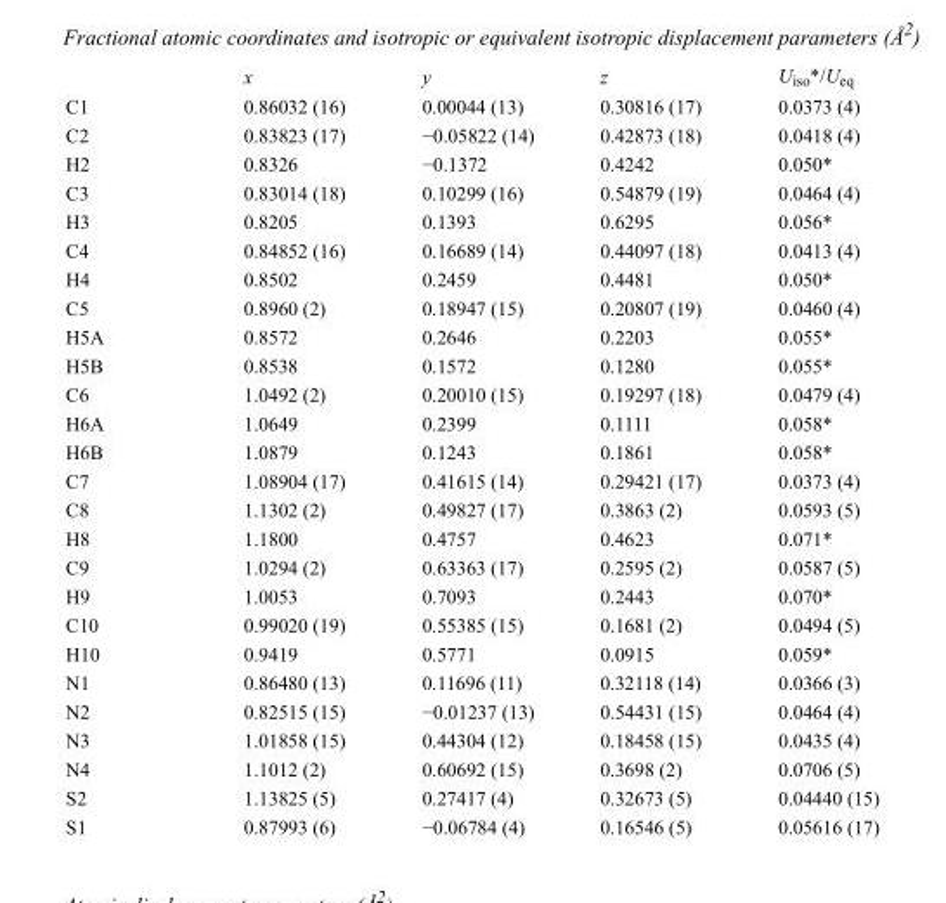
<table><thead><tr><td></td><td>x</td><td>y</td><td>z</td><td>U<sub>iso</sub>*/U<sub>eq</sub></td></tr></thead><tbody><tr><td>C1</td><td>0.86032 (16)</td><td>0.00044 (13)</td><td>0.30816 (17)</td><td>0.0373 (4)</td></tr><tr><td>C2</td><td>0.83823 (17)</td><td>−0.05822 (14)</td><td>0.42873 (18)</td><td>0.0418 (4)</td></tr><tr><td>H2</td><td>0.8326</td><td>−0.1372</td><td>0.4242</td><td>0.050*</td></tr><tr><td>C3</td><td>0.83014 (18)</td><td>0.10299 (16)</td><td>0.54879 (19)</td><td>0.0464 (4)</td></tr><tr><td>H3</td><td>0.8205</td><td>0.1393</td><td>0.6295</td><td>0.056*</td></tr><tr><td>C4</td><td>0.84852 (16)</td><td>0.16689 (14)</td><td>0.44097 (18)</td><td>0.0413 (4)</td></tr><tr><td>H4</td><td>0.8502</td><td>0.2459</td><td>0.4481</td><td>0.050*</td></tr><tr><td>C5</td><td>0.8960 (2)</td><td>0.18947 (15)</td><td>0.20807 (19)</td><td>0.0460 (4)</td></tr><tr><td>H5A</td><td>0.8572</td><td>0.2646</td><td>0.2203</td><td>0.055*</td></tr><tr><td>H5B</td><td>0.8538</td><td>0.1572</td><td>0.1280</td><td>0.055*</td></tr><tr><td>C6</td><td>1.0492 (2)</td><td>0.20010 (15)</td><td>0.19297 (18)</td><td>0.0479 (4)</td></tr><tr><td>H6A</td><td>1.0649</td><td>0.2399</td><td>0.1111</td><td>0.058*</td></tr><tr><td>H6B</td><td>1.0879</td><td>0.1243</td><td>0.1861</td><td>0.058*</td></tr><tr><td>C7</td><td>1.08904 (17)</td><td>0.41615 (14)</td><td>0.29421 (17)</td><td>0.0373 (4)</td></tr><tr><td>C8</td><td>1.1302 (2)</td><td>0.49827 (17)</td><td>0.3863 (2)</td><td>0.0593 (5)</td></tr><tr><td>H8</td><td>1.1800</td><td>0.4757</td><td>0.4623</td><td>0.071*</td></tr><tr><td>C9</td><td>1.0294 (2)</td><td>0.63363 (17)</td><td>0.2595 (2)</td><td>0.0587 (5)</td></tr><tr><td>H9</td><td>1.0053</td><td>0.7093</td><td>0.2443</td><td>0.070*</td></tr><tr><td>C10</td><td>0.99020 (19)</td><td>0.55385 (15)</td><td>0.1681 (2)</td><td>0.0494 (5)</td></tr><tr><td>H10</td><td>0.9419</td><td>0.5771</td><td>0.0915</td><td>0.059*</td></tr><tr><td>N1</td><td>0.86480 (13)</td><td>0.11696 (11)</td><td>0.32118 (14)</td><td>0.0366 (3)</td></tr><tr><td>N2</td><td>0.82515 (15)</td><td>−0.01237 (13)</td><td>0.54431 (15)</td><td>0.0464 (4)</td></tr><tr><td>N3</td><td>1.01858 (15)</td><td>0.44304 (12)</td><td>0.18458 (15)</td><td>0.0435 (4)</td></tr><tr><td>N4</td><td>1.1012 (2)</td><td>0.60692 (15)</td><td>0.3698 (2)</td><td>0.0706 (5)</td></tr><tr><td>S2</td><td>1.13825 (5)</td><td>0.27417 (4)</td><td>0.32673 (5)</td><td>0.04440 (15)</td></tr><tr><td>S1</td><td>0.87993 (6)</td><td>−0.06784 (4)</td><td>0.16546 (5)</td><td>0.05616 (17)</td></tr></tbody></table>